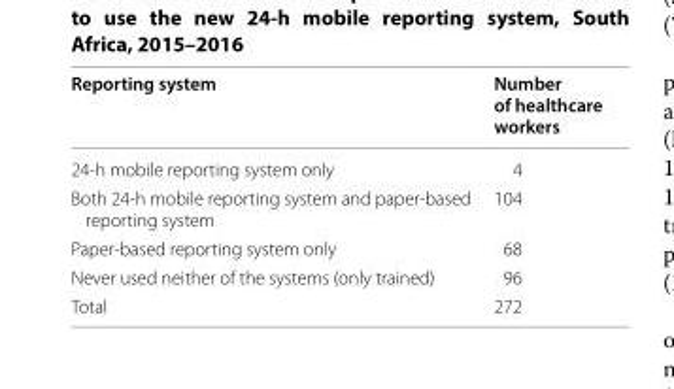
<table><thead><tr><td>Reporting system</td><td>Number of healthcare workers</td></tr></thead><tbody><tr><td>24-h mobile reporting system only</td><td>4</td></tr><tr><td>Both 24-h mobile reporting system and paper-based reporting system</td><td>104</td></tr><tr><td>Paper-based reporting system only</td><td>68</td></tr><tr><td>Never used neither of the systems (only trained)</td><td>96</td></tr><tr><td>Total</td><td>272</td></tr></tbody></table>